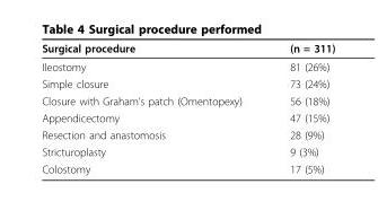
<table><thead><tr><td>Surgical procedure</td><td>(n = 311)</td></tr></thead><tbody><tr><td>Ileostomy</td><td>81 (26%)</td></tr><tr><td>Simple closure</td><td>73 (24%)</td></tr><tr><td>Closure with Graham’s patch (Omentopexy)</td><td>56 (18%)</td></tr><tr><td>Appendicectomy</td><td>47 (15%)</td></tr><tr><td>Resection and anastomosis</td><td>28 (9%)</td></tr><tr><td>Stricturoplasty</td><td>9 (3%)</td></tr><tr><td>Colostomy</td><td>17 (5%)</td></tr></tbody></table>